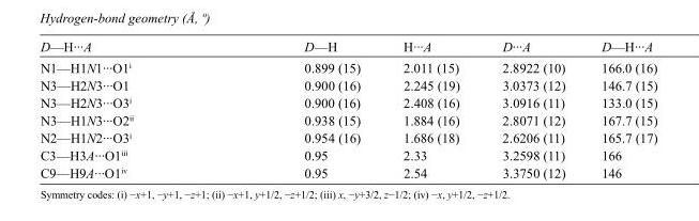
<table><tbody><tr><td>D—H···A</td><td>D—H</td><td>H···A</td><td>D···A</td><td>D—H···A</td></tr><tr><td>N1—H1N1···O1<sup>i</sup></td><td>0.899 (15)</td><td>2.011 (15)</td><td>2.8922 (10)</td><td>166.0 (16)</td></tr><tr><td>N3—H2N3···O1</td><td>0.900 (16)</td><td>2.245 (19)</td><td>3.0373 (12)</td><td>146.7 (15)</td></tr><tr><td>N3—H2N3···O3<sup>i</sup></td><td>0.900 (16)</td><td>2.408 (16)</td><td>3.0916 (11)</td><td>133.0 (15)</td></tr><tr><td>N3—H1N3···O2<sup>ii</sup></td><td>0.938 (15)</td><td>1.884 (16)</td><td>2.8071 (12)</td><td>167.7 (15)</td></tr><tr><td>N2—H1N2···O3<sup>i</sup></td><td>0.954 (16)</td><td>1.686 (18)</td><td>2.6206 (11)</td><td>165.7 (17)</td></tr><tr><td>C3—H3A···O1<sup>iii</sup></td><td>0.95</td><td>2.33</td><td>3.2598 (11)</td><td>166</td></tr><tr><td>C9—H9A···O1<sup>iv</sup></td><td>0.95</td><td>2.54</td><td>3.3750 (12)</td><td>146</td></tr></tbody></table>